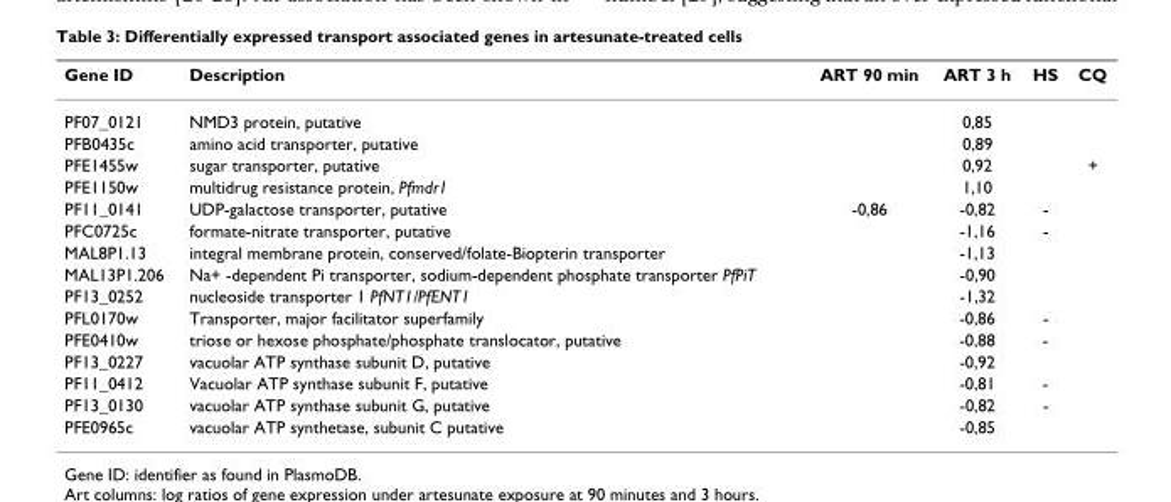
<table><thead><tr><td>Gene ID</td><td>Description</td><td>ART 90 min</td><td>ART 3 h</td><td>HS</td><td>CQ</td></tr></thead><tbody><tr><td>PF07_0121</td><td>NMD3 protein, putative</td><td></td><td>0,85</td><td></td><td></td></tr><tr><td>PFB0435c</td><td>amino acid transporter, putative</td><td></td><td>0,89</td><td></td><td></td></tr><tr><td>PFE1455w</td><td>sugar transporter, putative</td><td></td><td>0,92</td><td></td><td>+</td></tr><tr><td>PFE1150w</td><td>multidrug resistance protein, Pfmdr1</td><td></td><td>1,10</td><td></td><td></td></tr><tr><td>PF11_0141</td><td>UDP-galactose transporter, putative</td><td>-0,86</td><td>-0,82</td><td>-</td><td></td></tr><tr><td>PFC0725c</td><td>formate-nitrate transporter, putative</td><td></td><td>-1,16</td><td>-</td><td></td></tr><tr><td>MAL8P1.13</td><td>integral membrane protein, conserved/folate-Biopterin transporter</td><td></td><td>-1,13</td><td></td><td></td></tr><tr><td>MAL13P1.206</td><td>Na+ -dependent Pi transporter, sodium-dependent phosphate transporter PfPiT</td><td></td><td>-0,90</td><td></td><td></td></tr><tr><td>PF13_0252</td><td>nucleoside transporter 1 PfNT1/PfENT1</td><td></td><td>-1,32</td><td></td><td></td></tr><tr><td>PFL0170w</td><td>Transporter, major facilitator superfamily</td><td></td><td>-0,86</td><td>-</td><td></td></tr><tr><td>PFE0410w</td><td>triose or hexose phosphate/phosphate translocator, putative</td><td></td><td>-0,88</td><td>-</td><td></td></tr><tr><td>PF13_0227</td><td>vacuolar ATP synthase subunit D, putative</td><td></td><td>-0,92</td><td></td><td></td></tr><tr><td>PF11_0412</td><td>Vacuolar ATP synthase subunit F, putative</td><td></td><td>-0,81</td><td>-</td><td></td></tr><tr><td>PF13_0130</td><td>vacuolar ATP synthase subunit G, putative</td><td></td><td>-0,82</td><td>-</td><td></td></tr><tr><td>PFE0965c</td><td>vacuolar ATP synthetase, subunit C putative</td><td></td><td>-0,85</td><td></td><td></td></tr></tbody></table>